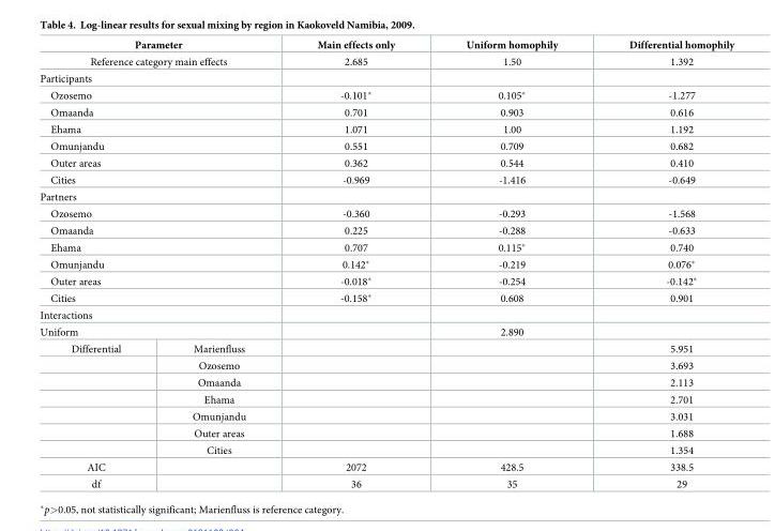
<table><thead><tr><td colspan="2">Parameter</td><td>Main effects only</td><td>Uniform homophily</td><td>Differential homophily</td></tr></thead><tbody><tr><td colspan="2">Reference category main effects</td><td>2.685</td><td>1.50</td><td>1.392</td></tr><tr><td colspan="5">Participants</td></tr><tr><td colspan="2">Ozosemo</td><td>-0.101*</td><td>0.105*</td><td>-1.277</td></tr><tr><td colspan="2">Omaanda</td><td>0.701</td><td>0.903</td><td>0.616</td></tr><tr><td colspan="2">Ehama</td><td>1.071</td><td>1.00</td><td>1.192</td></tr><tr><td colspan="2">Omunjandu</td><td>0.551</td><td>0.709</td><td>0.682</td></tr><tr><td colspan="2">Outer areas</td><td>0.362</td><td>0.544</td><td>0.410</td></tr><tr><td colspan="2">Cities</td><td>-0.969</td><td>-1.416</td><td>-0.649</td></tr><tr><td colspan="5">Partners</td></tr><tr><td colspan="2">Ozosemo</td><td>-0.360</td><td>-0.293</td><td>-1.568</td></tr><tr><td colspan="2">Omaanda</td><td>0.225</td><td>-0.288</td><td>-0.633</td></tr><tr><td colspan="2">Ehama</td><td>0.707</td><td>0.115*</td><td>0.740</td></tr><tr><td colspan="2">Omunjandu</td><td>0.142*</td><td>-0.219</td><td>0.076*</td></tr><tr><td colspan="2">Outer areas</td><td>-0.018*</td><td>-0.254</td><td>-0.142*</td></tr><tr><td colspan="2">Cities</td><td>-0.158*</td><td>0.608</td><td>0.901</td></tr><tr><td colspan="5">Interactions</td></tr><tr><td colspan="2">Uniform</td><td></td><td>2.890</td><td></td></tr><tr><td rowspan="7">Differential</td><td>Marienfluss</td><td></td><td></td><td>5.951</td></tr><tr><td>Ozosemo</td><td></td><td></td><td>3.693</td></tr><tr><td>Omaanda</td><td></td><td></td><td>2.113</td></tr><tr><td>Ehama</td><td></td><td></td><td>2.701</td></tr><tr><td>Omunjandu</td><td></td><td></td><td>3.031</td></tr><tr><td>Outer areas</td><td></td><td></td><td>1.688</td></tr><tr><td>Cities</td><td></td><td></td><td>1.354</td></tr><tr><td>AIC</td><td></td><td>2072</td><td>428.5</td><td>338.5</td></tr><tr><td>df</td><td></td><td>36</td><td>35</td><td>29</td></tr></tbody></table>